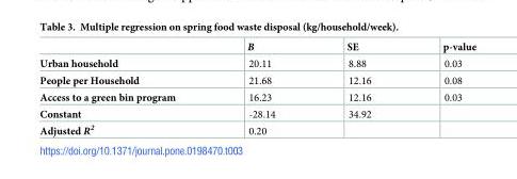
<table><thead><tr><td></td><td>B</td><td>SE</td><td>p-value</td></tr></thead><tbody><tr><td>Urban household</td><td>20.11</td><td>8.88</td><td>0.03</td></tr><tr><td>People per Household</td><td>21.68</td><td>12.16</td><td>0.08</td></tr><tr><td>Access to a green bin program</td><td>16.23</td><td>12.16</td><td>0.03</td></tr><tr><td>Constant</td><td>-28.14</td><td>34.92</td><td></td></tr><tr><td>Adjusted R<sup>2</sup></td><td>0.20</td><td></td><td></td></tr></tbody></table>